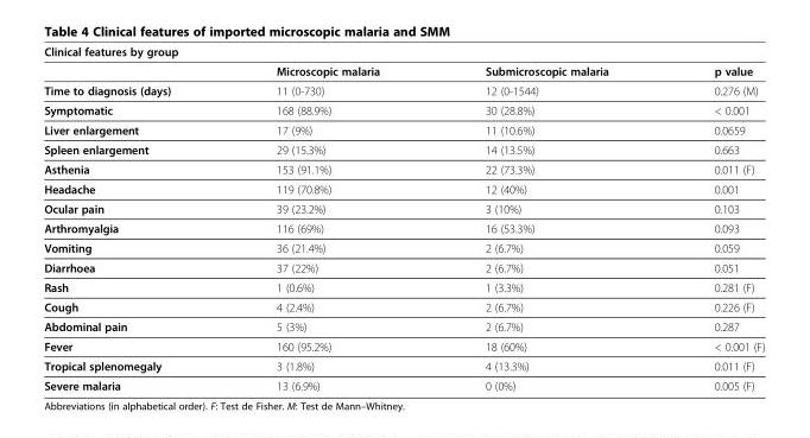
<table><thead><tr><td rowspan="2">Clinical features by group</td><td rowspan="2">Microscopic malaria</td><td rowspan="2">Submicroscopic malaria</td><td rowspan="2">p value</td></tr><tr></tr></thead><tbody><tr><td>Time to diagnosis (days)</td><td>11 (0-730)</td><td>12 (0-1544)</td><td>0.276 (M)</td></tr><tr><td>Symptomatic</td><td>168 (88.9%)</td><td>30 (28.8%)</td><td>&lt; 0.001</td></tr><tr><td>Liver enlargement</td><td>17 (9%)</td><td>11 (10.6%)</td><td>0.0659</td></tr><tr><td>Spleen enlargement</td><td>29 (15.3%)</td><td>14 (13.5%)</td><td>0.663</td></tr><tr><td>Asthenia</td><td>153 (91.1%)</td><td>22 (73.3%)</td><td>0.011 (F)</td></tr><tr><td>Headache</td><td>119 (70.8%)</td><td>12 (40%)</td><td>0.001</td></tr><tr><td>Ocular pain</td><td>39 (23.2%)</td><td>3 (10%)</td><td>0.103</td></tr><tr><td>Arthromyalgia</td><td>116 (69%)</td><td>16 (53.3%)</td><td>0.093</td></tr><tr><td>Vomiting</td><td>36 (21.4%)</td><td>2 (6.7%)</td><td>0.059</td></tr><tr><td>Diarrhoea</td><td>37 (22%)</td><td>2 (6.7%)</td><td>0.051</td></tr><tr><td>Rash</td><td>1 (0.6%)</td><td>1 (3.3%)</td><td>0.281 (F)</td></tr><tr><td>Cough</td><td>4 (2.4%)</td><td>2 (6.7%)</td><td>0.226 (F)</td></tr><tr><td>Abdominal pain</td><td>5 (3%)</td><td>2 (6.7%)</td><td>0.287</td></tr><tr><td>Fever</td><td>160 (95.2%)</td><td>18 (60%)</td><td>&lt; 0.001 (F)</td></tr><tr><td>Tropical splenomegaly</td><td>3 (1.8%)</td><td>4 (13.3%)</td><td>0.011 (F)</td></tr><tr><td>Severe malaria</td><td>13 (6.9%)</td><td>0 (0%)</td><td>0.005 (F)</td></tr></tbody></table>